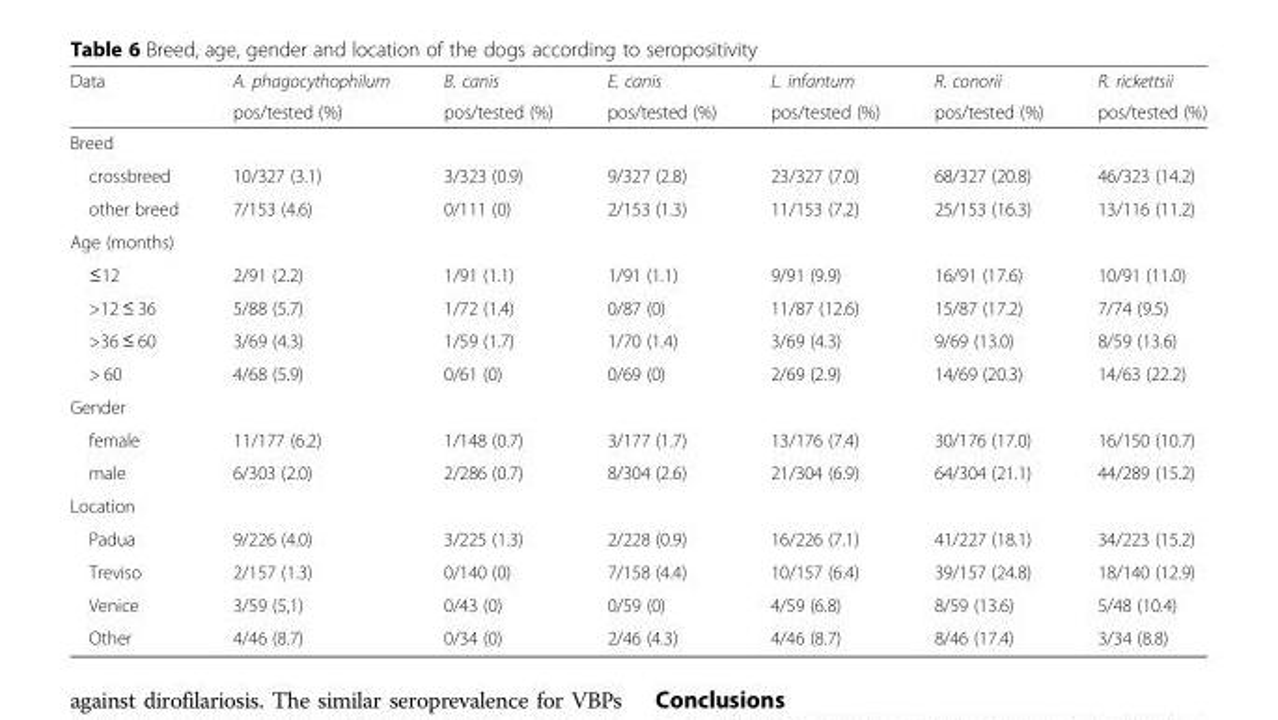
<table><thead><tr><td rowspan="2">Data</td><td rowspan="2">A. phagocythophilum pos/tested (%)</td><td rowspan="2">B. canis pos/tested (%)</td><td rowspan="2">E. canis pos/tested (%)</td><td rowspan="2">L. infantum pos/tested (%)</td><td rowspan="2">R. conorii pos/tested (%)</td><td rowspan="2">R. rickettsii pos/tested (%)</td></tr><tr></tr></thead><tbody><tr><td colspan="7">Breed</td></tr><tr><td>crossbreed</td><td>10/327 (3.1)</td><td>3/323 (0.9)</td><td>9/327 (2.8)</td><td>23/327 (7.0)</td><td>68/327 (20.8)</td><td>46/323 (14.2)</td></tr><tr><td>other breed</td><td>7/153 (4.6)</td><td>0/111 (0)</td><td>2/153 (1.3)</td><td>11/153 (7.2)</td><td>25/153 (16.3)</td><td>13/116 (11.2)</td></tr><tr><td colspan="7">Age (months)</td></tr><tr><td>≤12</td><td>2/91 (2.2)</td><td>1/91 (1.1)</td><td>1/91 (1.1)</td><td>9/91 (9.9)</td><td>16/91 (17.6)</td><td>10/91 (11.0)</td></tr><tr><td>&gt;12 ≤ 36</td><td>5/88 (5.7)</td><td>1/72 (1.4)</td><td>0/87 (0)</td><td>11/87 (12.6)</td><td>15/87 (17.2)</td><td>7/74 (9.5)</td></tr><tr><td>&gt;36 ≤ 60</td><td>3/69 (4.3)</td><td>1/59 (1.7)</td><td>1/70 (1.4)</td><td>3/69 (4.3)</td><td>9/69 (13.0)</td><td>8/59 (13.6)</td></tr><tr><td>&gt; 60</td><td>4/68 (5.9)</td><td>0/61 (0)</td><td>0/69 (0)</td><td>2/69 (2.9)</td><td>14/69 (20.3)</td><td>14/63 (22.2)</td></tr><tr><td colspan="7">Gender</td></tr><tr><td>female</td><td>11/177 (6.2)</td><td>1/148 (0.7)</td><td>3/177 (1.7)</td><td>13/176 (7.4)</td><td>30/176 (17.0)</td><td>16/150 (10.7)</td></tr><tr><td>male</td><td>6/303 (2.0)</td><td>2/286 (0.7)</td><td>8/304 (2.6)</td><td>21/304 (6.9)</td><td>64/304 (21.1)</td><td>44/289 (15.2)</td></tr><tr><td colspan="7">Location</td></tr><tr><td>Padua</td><td>9/226 (4.0)</td><td>3/225 (1.3)</td><td>2/228 (0.9)</td><td>16/226 (7.1)</td><td>41/227 (18.1)</td><td>34/223 (15.2)</td></tr><tr><td>Treviso</td><td>2/157 (1.3)</td><td>0/140 (0)</td><td>7/158 (4.4)</td><td>10/157 (6.4)</td><td>39/157 (24.8)</td><td>18/140 (12.9)</td></tr><tr><td>Venice</td><td>3/59 (5,1)</td><td>0/43 (0)</td><td>0/59 (0)</td><td>4/59 (6.8)</td><td>8/59 (13.6)</td><td>5/48 (10.4)</td></tr><tr><td>Other</td><td>4/46 (8.7)</td><td>0/34 (0)</td><td>2/46 (4.3)</td><td>4/46 (8.7)</td><td>8/46 (17.4)</td><td>3/34 (8.8)</td></tr></tbody></table>